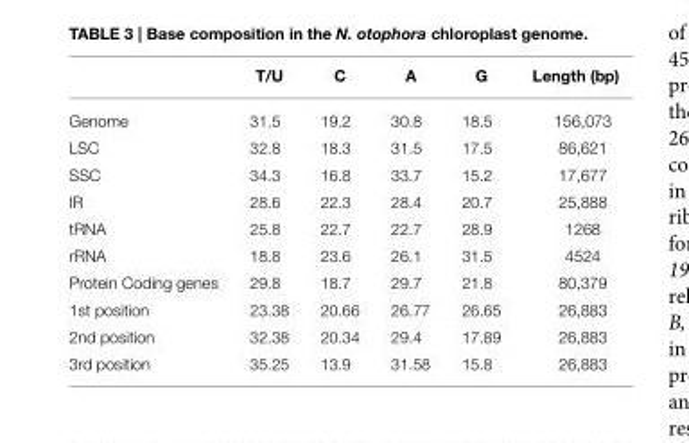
<table><thead><tr><td></td><td>T/U</td><td>C</td><td>A</td><td>G</td><td>Length (bp)</td></tr></thead><tbody><tr><td>Genome</td><td>31.5</td><td>19.2</td><td>30.8</td><td>18.5</td><td>156,073</td></tr><tr><td>LSC</td><td>32.8</td><td>18.3</td><td>31.5</td><td>17.5</td><td>86,621</td></tr><tr><td>SSC</td><td>34.3</td><td>16.8</td><td>33.7</td><td>15.2</td><td>17,677</td></tr><tr><td>IR</td><td>28.6</td><td>22.3</td><td>28.4</td><td>20.7</td><td>25,888</td></tr><tr><td>tRNA</td><td>25.8</td><td>22.7</td><td>22.7</td><td>28.9</td><td>1268</td></tr><tr><td>rRNA</td><td>18.8</td><td>23.6</td><td>26.1</td><td>31.5</td><td>4524</td></tr><tr><td>Protein Coding genes</td><td>29.8</td><td>18.7</td><td>29.7</td><td>21.8</td><td>80,379</td></tr><tr><td>1st position</td><td>23.38</td><td>20.66</td><td>26.77</td><td>26.65</td><td>26,883</td></tr><tr><td>2nd position</td><td>32.38</td><td>20.34</td><td>29.4</td><td>17.89</td><td>26,883</td></tr><tr><td>3rd position</td><td>35.25</td><td>13.9</td><td>31.58</td><td>15.8</td><td>26,883</td></tr></tbody></table>